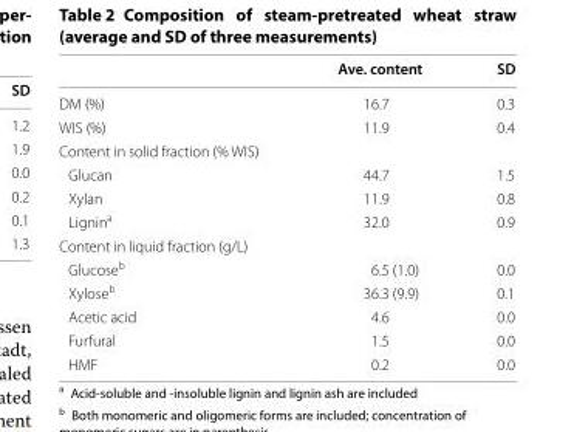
<table><thead><tr><td></td><td>Ave. content</td><td>SD</td></tr></thead><tbody><tr><td>DM (%)</td><td>16.7</td><td>0.3</td></tr><tr><td>WIS (%)</td><td>11.9</td><td>0.4</td></tr><tr><td colspan="3">Content in solid fraction (% WIS)</td></tr><tr><td>Glucan</td><td>44.7</td><td>1.5</td></tr><tr><td>Xylan</td><td>11.9</td><td>0.8</td></tr><tr><td>Lignin<sup>a</sup></td><td>32.0</td><td>0.9</td></tr><tr><td colspan="3">Content in liquid fraction (g/L)</td></tr><tr><td>Glucose<sup>b</sup></td><td>6.5 (1.0)</td><td>0.0</td></tr><tr><td>Xylose<sup>b</sup></td><td>36.3 (9.9)</td><td>0.1</td></tr><tr><td>Acetic acid</td><td>4.6</td><td>0.0</td></tr><tr><td>Furfural</td><td>1.5</td><td>0.0</td></tr><tr><td>HMF</td><td>0.2</td><td>0.0</td></tr></tbody></table>